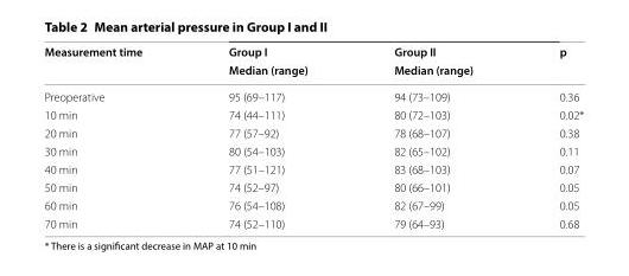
<table><thead><tr><td rowspan="2">Measurement time</td><td rowspan="2">Group I Median (range)</td><td rowspan="2">Group II Median (range)</td><td rowspan="2">p</td></tr><tr></tr></thead><tbody><tr><td>Preoperative</td><td>95 (69–117)</td><td>94 (73–109)</td><td>0.36</td></tr><tr><td>10 min</td><td>74 (44–111)</td><td>80 (72–103)</td><td>0.02*</td></tr><tr><td>20 min</td><td>77 (57–92)</td><td>78 (68–107)</td><td>0.38</td></tr><tr><td>30 min</td><td>80 (54–103)</td><td>82 (65–102)</td><td>0.11</td></tr><tr><td>40 min</td><td>77 (51–121)</td><td>83 (68–103)</td><td>0.07</td></tr><tr><td>50 min</td><td>74 (52–97)</td><td>80 (66–101)</td><td>0.05</td></tr><tr><td>60 min</td><td>76 (54–108)</td><td>82 (67–99)</td><td>0.05</td></tr><tr><td>70 min</td><td>74 (52–110)</td><td>79 (64–93)</td><td>0.68</td></tr></tbody></table>